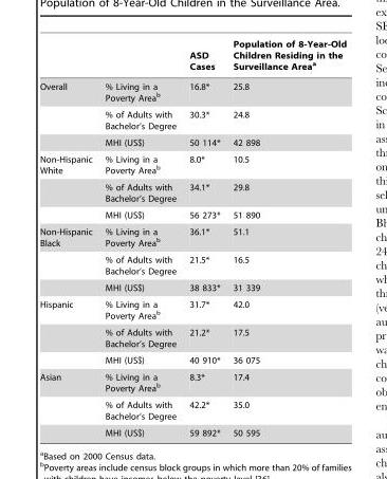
<table><thead><tr><td></td><td></td><td>ASD Cases</td><td>Population of 8-Year-Old Children Residing in the Surveillance Area<sup>a</sup></td></tr></thead><tbody><tr><td rowspan="3">Overall</td><td>% Living in a Poverty Area<sup>b</sup></td><td>16.8*</td><td>25.8</td></tr><tr><td>% of Adults with Bachelor’s Degree</td><td>30.3*</td><td>24.8</td></tr><tr><td>MHI (US$)</td><td>50 114*</td><td>42 898</td></tr><tr><td rowspan="3">Non-Hispanic White</td><td>% Living in a Poverty Area<sup>b</sup></td><td>8.0*</td><td>10.5</td></tr><tr><td>% of Adults with Bachelor’s Degree</td><td>34.1*</td><td>29.8</td></tr><tr><td>MHI (US$)</td><td>56 273*</td><td>51 890</td></tr><tr><td rowspan="3">Non-Hispanic Black</td><td>% Living in a Poverty Area<sup>b</sup></td><td>36.1*</td><td>51.1</td></tr><tr><td>% of Adults with Bachelor’s Degree</td><td>21.5*</td><td>16.5</td></tr><tr><td>MHI (US$)</td><td>38 833*</td><td>31 339</td></tr><tr><td rowspan="3">Hispanic</td><td>% Living in a Poverty Area<sup>b</sup></td><td>31.7*</td><td>42.0</td></tr><tr><td>% of Adults with Bachelor’s Degree</td><td>21.2*</td><td>17.5</td></tr><tr><td>MHI (US$)</td><td>40 910*</td><td>36 075</td></tr><tr><td rowspan="3">Asian</td><td>% Living in a Poverty Area<sup>b</sup></td><td>8.3*</td><td>17.4</td></tr><tr><td>% of Adults with Bachelor’s Degree</td><td>42.2*</td><td>35.0</td></tr><tr><td>MHI (US$)</td><td>59 892*</td><td>50 595</td></tr></tbody></table>